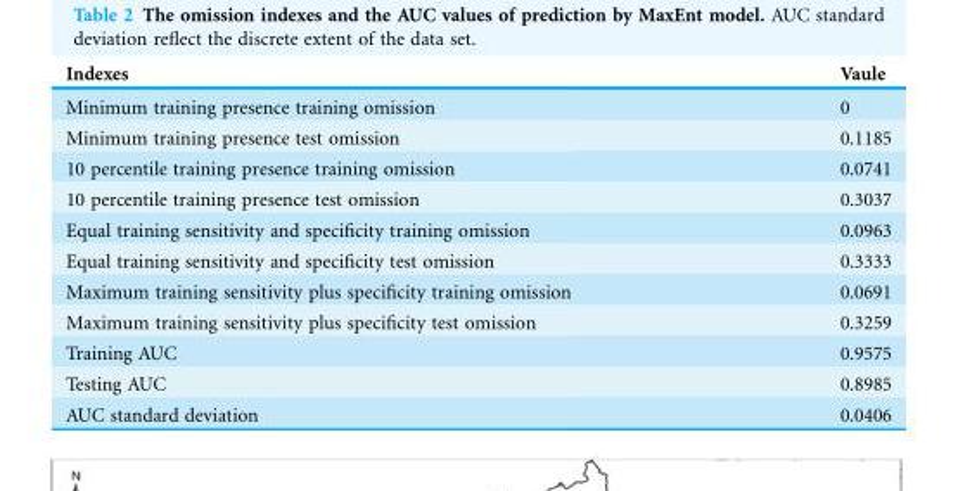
<table><thead><tr><td>Indexes</td><td>Vaule</td></tr></thead><tbody><tr><td>Minimum training presence training omission</td><td>0</td></tr><tr><td>Minimum training presence test omission</td><td>0.1185</td></tr><tr><td>10 percentile training presence training omission</td><td>0.0741</td></tr><tr><td>10 percentile training presence test omission</td><td>0.3037</td></tr><tr><td>Equal training sensitivity and specificity training omission</td><td>0.0963</td></tr><tr><td>Equal training sensitivity and specificity test omission</td><td>0.3333</td></tr><tr><td>Maximum training sensitivity plus specificity training omission</td><td>0.0691</td></tr><tr><td>Maximum training sensitivity plus specificity test omission</td><td>0.3259</td></tr><tr><td>Training AUC</td><td>0.9575</td></tr><tr><td>Testing AUC</td><td>0.8985</td></tr><tr><td>AUC standard deviation</td><td>0.0406</td></tr></tbody></table>